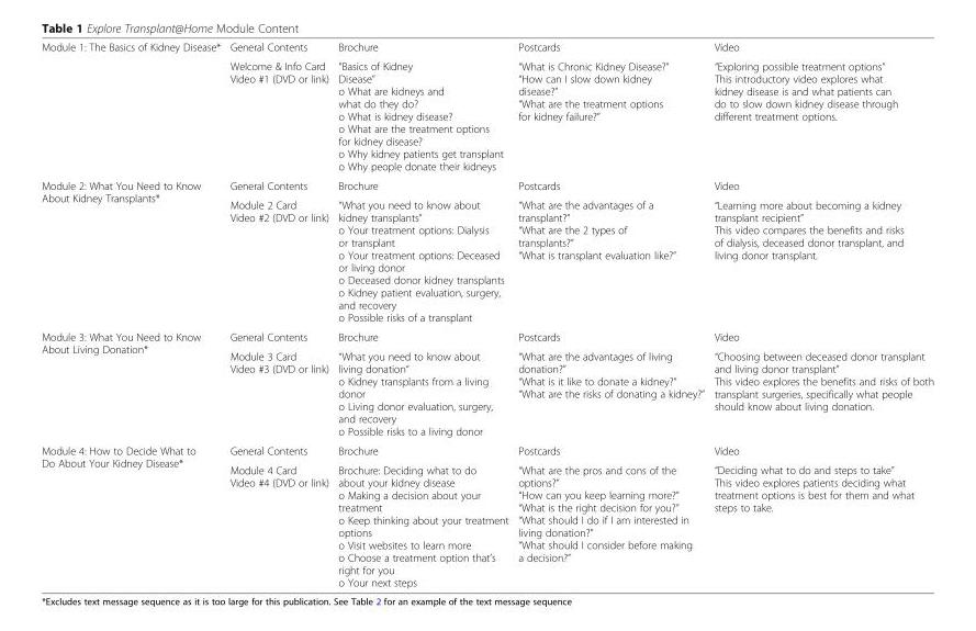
<table><tbody><tr><td rowspan="2">Module 1: The Basics of Kidney Disease*</td><td>General Contents</td><td>Brochure</td><td>Postcards</td><td>Video</td></tr><tr><td>Welcome &amp; Info Card Video #1 (DVD or link)</td><td>“Basics of Kidney Disease” o What are kidneys and what do they do? o What is kidney disease? o What are the treatment options for kidney disease? o Why kidney patients get transplant o Why people donate their kidneys</td><td>“What is Chronic Kidney Disease?” “How can I slow down kidney disease?” “What are the treatment options for kidney failure?”</td><td>“Exploring possible treatment options” This introductory video explores what kidney disease is and what patients can do to slow down kidney disease through different treatment options.</td></tr><tr><td rowspan="2">Module 2: What You Need to Know About Kidney Transplants*</td><td>General Contents</td><td>Brochure</td><td>Postcards</td><td>Video</td></tr><tr><td>Module 2 Card Video #2 (DVD or link)</td><td>“What you need to know about kidney transplants” o Your treatment options: Dialysis or transplant o Your treatment options: Deceased or living donor o Deceased donor kidney transplants o Kidney patient evaluation, surgery, and recovery o Possible risks of a transplant</td><td>“What are the advantages of a transplant?” “What are the 2 types of transplants?” “What is transplant evaluation like?”</td><td>“Learning more about becoming a kidney transplant recipient” This video compares the benefits and risks of dialysis, deceased donor transplant, and living donor transplant.</td></tr><tr><td rowspan="2">Module 3: What You Need to Know About Living Donation*</td><td>General Contents</td><td>Brochure</td><td>Postcards</td><td>Video</td></tr><tr><td>Module 3 Card Video #3 (DVD or link)</td><td>“What you need to know about living donation“ o Kidney transplants from a living donor o Living donor evaluation, surgery, and recovery o Possible risks to a living donor</td><td>“What are the advantages of living donation?” “What is it like to donate a kidney?” “What are the risks of donating a kidney?”</td><td>“Choosing between deceased donor transplant and living donor transplant” This video explores the benefits and risks of both transplant surgeries, specifically what people should know about living donation.</td></tr><tr><td rowspan="2">Module 4: How to Decide What to Do About Your Kidney Disease*</td><td>General Contents</td><td>Brochure</td><td>Postcards</td><td>Video</td></tr><tr><td>Module 4 Card Video #4 (DVD or link)</td><td>Brochure: Deciding what to do about your kidney disease o Making a decision about your treatment o Keep thinking about your treatment options o Visit websites to learn more o Choose a treatment option that’s right for you o Your next steps</td><td>“What are the pros and cons of the options?” “How can you keep learning more?” “What is the right decision for you?” “What should I do if I am interested in living donation?” “What should I consider before making a decision?”</td><td>“Deciding what to do and steps to take” This video explores patients deciding what treatment options is best for them and what steps to take.</td></tr></tbody></table>